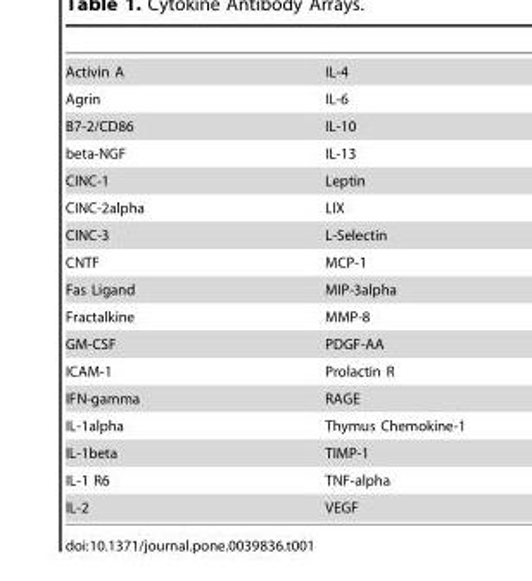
<table><tbody><tr><td>Activin A</td><td>IL-4</td></tr><tr><td>Agrin</td><td>IL-6</td></tr><tr><td>B7-2/CD86</td><td>IL-10</td></tr><tr><td>beta-NGF</td><td>IL-13</td></tr><tr><td>CINC-1</td><td>Leptin</td></tr><tr><td>CINC-2alpha</td><td>LIX</td></tr><tr><td>CINC-3</td><td>L-Selectin</td></tr><tr><td>CNTF</td><td>MCP-1</td></tr><tr><td>Fas Ligand</td><td>MIP-3alpha</td></tr><tr><td>Fractalkine</td><td>MMP-8</td></tr><tr><td>GM-CSF</td><td>PDGF-AA</td></tr><tr><td>ICAM-1</td><td>Prolactin R</td></tr><tr><td>IFN-gamma</td><td>RAGE</td></tr><tr><td>IL-1alpha</td><td>Thymus Chemokine-1</td></tr><tr><td>IL-1beta</td><td>TIMP-1</td></tr><tr><td>IL-1 R6</td><td>TNF-alpha</td></tr><tr><td>IL-2</td><td>VEGF</td></tr></tbody></table>